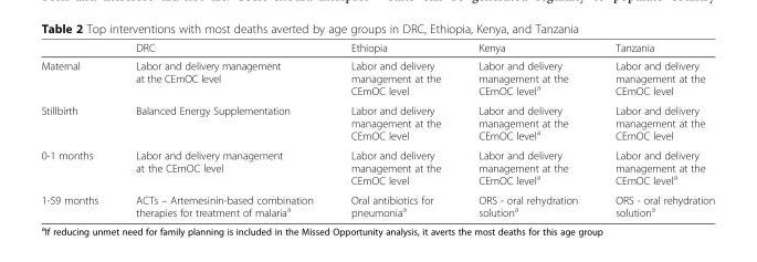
<table><thead><tr><td></td><td>DRC</td><td>Ethiopia</td><td>Kenya</td><td>Tanzania</td></tr></thead><tbody><tr><td>Maternal</td><td>Labor and delivery management at the CEmOC level</td><td>Labor and delivery management at the CEmOC level</td><td>Labor and delivery management at the CEmOC level<sup>a</sup></td><td>Labor and delivery management at the CEmOC level</td></tr><tr><td>Stillbirth</td><td>Balanced Energy Supplementation</td><td>Labor and delivery management at the CEmOC level</td><td>Labor and delivery management at the CEmOC level<sup>a</sup></td><td>Labor and delivery management at the CEmOC level</td></tr><tr><td>0-1 months</td><td>Labor and delivery management at the CEmOC level</td><td>Labor and delivery management at the CEmOC level</td><td>Labor and delivery management at the CEmOC level<sup>a</sup></td><td>Labor and delivery management at the CEmOC level<sup>a</sup></td></tr><tr><td>1-59 months</td><td>ACTs – Artemesinin-based combination therapies for treatment of malaria<sup>a</sup></td><td>Oral antibiotics for pneumonia<sup>a</sup></td><td>ORS - oral rehydration solution<sup>a</sup></td><td>ORS - oral rehydration solution<sup>a</sup></td></tr></tbody></table>